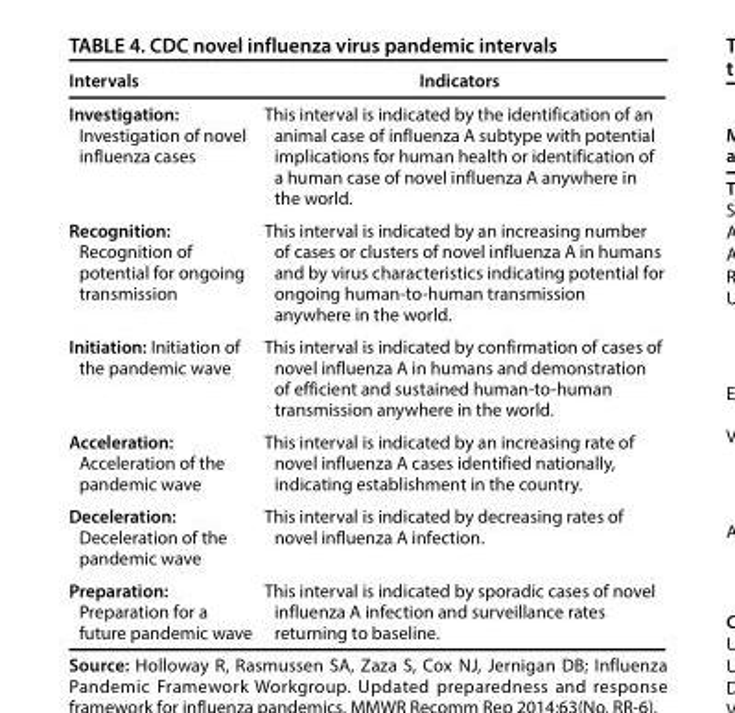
<table><thead><tr><td>Intervals</td><td>Indicators</td></tr></thead><tbody><tr><td>Investigation: Investigation of novel influenza cases</td><td>This interval is indicated by the identification of an animal case of influenza A subtype with potential implications for human health or identification of a human case of novel influenza A anywhere in the world.</td></tr><tr><td>Recognition: Recognition of potential for ongoing transmission</td><td>This interval is indicated by an increasing number of cases or clusters of novel influenza A in humans and by virus characteristics indicating potential for ongoing human-to-human transmission anywhere in the world.</td></tr><tr><td>Initiation: Initiation of the pandemic wave</td><td>This interval is indicated by confirmation of cases of novel influenza A in humans and demonstration of efficient and sustained human-to-human transmission anywhere in the world.</td></tr><tr><td>Acceleration: Acceleration of the pandemic wave</td><td>This interval is indicated by an increasing rate of novel influenza A cases identified nationally, indicating establishment in the country.</td></tr><tr><td>Deceleration: Deceleration of the pandemic wave</td><td>This interval is indicated by decreasing rates of novel influenza A infection.</td></tr><tr><td>Preparation: Preparation for a future pandemic wave</td><td>This interval is indicated by sporadic cases of novel influenza A infection and surveillance rates returning to baseline.</td></tr></tbody></table>